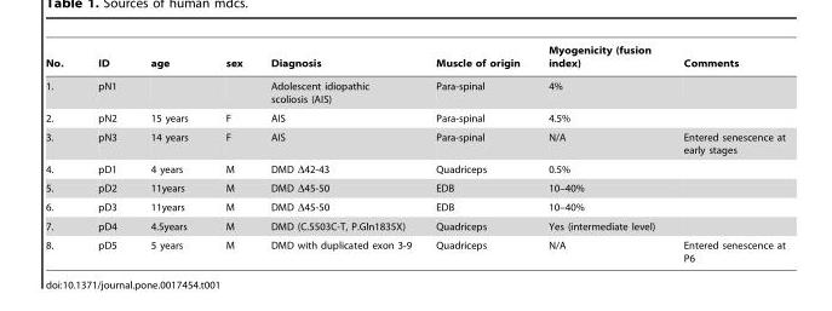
<table><thead><tr><td>No.</td><td>ID</td><td>age</td><td>sex</td><td>Diagnosis</td><td>Muscle of origin</td><td>Myogenicity (fusion index)</td><td>Comments</td></tr></thead><tbody><tr><td>1.</td><td>pN1</td><td></td><td></td><td>Adolescent idiopathic scoliosis (AIS)</td><td>Para-spinal</td><td>4%</td><td></td></tr><tr><td>2.</td><td>pN2</td><td>15 years</td><td>F</td><td>AIS</td><td>Para-spinal</td><td>4.5%</td><td></td></tr><tr><td>3.</td><td>pN3</td><td>14 years</td><td>F</td><td>AIS</td><td>Para-spinal</td><td>N/A</td><td>Entered senescence at early stages</td></tr><tr><td>4.</td><td>pD1</td><td>4 years</td><td>M</td><td>DMD Δ42-43</td><td>Quadriceps</td><td>0.5%</td><td></td></tr><tr><td>5.</td><td>pD2</td><td>11years</td><td>M</td><td>DMD Δ45-50</td><td>EDB</td><td>10–40%</td><td></td></tr><tr><td>6.</td><td>pD3</td><td>11years</td><td>M</td><td>DMD Δ45-50</td><td>EDB</td><td>10–40%</td><td></td></tr><tr><td>7.</td><td>pD4</td><td>4.5years</td><td>M</td><td>DMD (C.5503C-T, P.Gln1835X)</td><td>Quadriceps</td><td>Yes (intermediate level)</td><td></td></tr><tr><td>8.</td><td>pD5</td><td>5 years</td><td>M</td><td>DMD with duplicated exon 3-9</td><td>Quadriceps</td><td>N/A</td><td>Entered senescence at P6</td></tr></tbody></table>